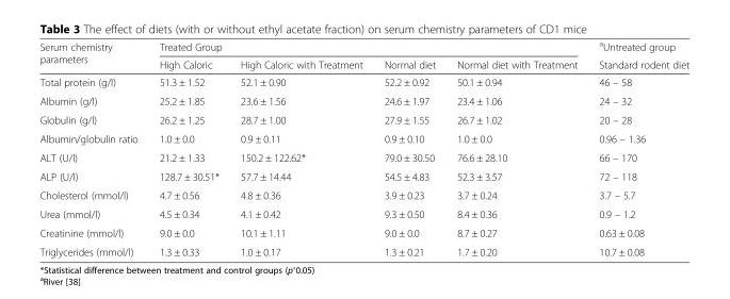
<table><thead><tr><td rowspan="2">Serum chemistry parameters</td><td colspan="4">Treated Group</td><td rowspan="2"><sup>a</sup>Untreated group Standard rodent diet</td></tr><tr><td>High Caloric</td><td>High Caloric with Treatment</td><td>Normal diet</td><td>Normal diet with Treatment</td></tr></thead><tbody><tr><td>Total protein (g/l)</td><td>51.3 ± 1.52</td><td>52.1 ± 0.90</td><td>52.2 ± 0.92</td><td>50.1 ± 0.94</td><td>46 – 58</td></tr><tr><td>Albumin (g/l)</td><td>25.2 ± 1.85</td><td>23.6 ± 1.56</td><td>24.6 ± 1.97</td><td>23.4 ± 1.06</td><td>24 – 32</td></tr><tr><td>Globulin (g/l)</td><td>26.2 ± 1.25</td><td>28.7 ± 1.00</td><td>27.9 ± 1.55</td><td>26.7 ± 1.02</td><td>20 – 28</td></tr><tr><td>Albumin/globulin ratio</td><td>1.0 ± 0.0</td><td>0.9 ± 0.11</td><td>0.9 ± 0.10</td><td>1.0 ± 0.0</td><td>0.96 – 1.36</td></tr><tr><td>ALT (U/l)</td><td>21.2 ± 1.33</td><td>150.2 ± 122.62*</td><td>79.0 ± 30.50</td><td>76.6 ± 28.10</td><td>66 – 170</td></tr><tr><td>ALP (U/l)</td><td>128.7 ± 30.51*</td><td>57.7 ± 14.44</td><td>54.5 ± 4.83</td><td>52.3 ± 3.57</td><td>72 – 118</td></tr><tr><td>Cholesterol (mmol/l)</td><td>4.7 ± 0.56</td><td>4.8 ± 0.36</td><td>3.9 ± 0.23</td><td>3.7 ± 0.24</td><td>3.7 – 5.7</td></tr><tr><td>Urea (mmol/l)</td><td>4.5 ± 0.34</td><td>4.1 ± 0.42</td><td>9.3 ± 0.50</td><td>8.4 ± 0.36</td><td>0.9 – 1.2</td></tr><tr><td>Creatinine (mmol/l)</td><td>9.0 ± 0.0</td><td>10.1 ± 1.11</td><td>9.0 ± 0.0</td><td>8.7 ± 0.27</td><td>0.63 ± 0.08</td></tr><tr><td>Triglycerides (mmol/l)</td><td>1.3 ± 0.33</td><td>1.0 ± 0.17</td><td>1.3 ± 0.21</td><td>1.7 ± 0.20</td><td>10.7 ± 0.08</td></tr></tbody></table>